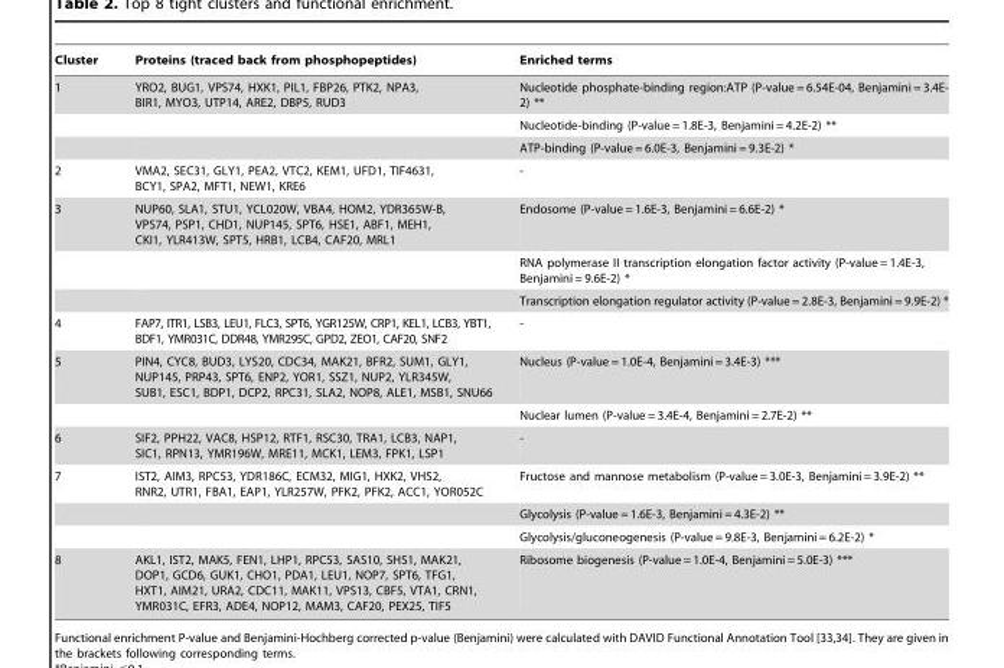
<table><thead><tr><td>Cluster</td><td>Proteins (traced back from phosphopeptides)</td><td>Enriched terms</td></tr></thead><tbody><tr><td rowspan="3">1</td><td>YRO2, BUG1, VPS74, HXK1, PIL1, FBP26, PTK2, NPA3, BIR1, MYO3, UTP14, ARE2, DBP5, RUD3</td><td>Nucleotide phosphate-binding region:ATP (P-value = 6.54E-04, Benjamini = 3.4E- 2) **</td></tr><tr><td></td><td>Nucleotide-binding (P-value = 1.8E-3, Benjamini = 4.2E-2) **</td></tr><tr><td></td><td>ATP-binding (P-value = 6.0E-3, Benjamini = 9.3E-2) *</td></tr><tr><td>2</td><td>VMA2, SEC31, GLY1, PEA2, VTC2, KEM1, UFD1, TIF4631, BCY1, SPA2, MFT1, NEW1, KRE6</td><td>-</td></tr><tr><td rowspan="3">3</td><td>NUP60, SLA1, STU1, YCL020W, VBA4, HOM2, YDR365W-B, VPS74, PSP1, CHD1, NUP145, SPT6, HSE1, ABF1, MEH1, CKI1, YLR413W, SPT5, HRB1, LCB4, CAF20, MRL1</td><td>Endosome (P-value = 1.6E-3, Benjamini = 6.6E-2) *</td></tr><tr><td></td><td>RNA polymerase II transcription elongation factor activity (P-value = 1.4E-3, Benjamini = 9.6E-2) *</td></tr><tr><td></td><td>Transcription elongation regulator activity (P-value = 2.8E-3, Benjamini = 9.9E-2) *</td></tr><tr><td>4</td><td>FAP7, ITR1, LSB3, LEU1, FLC3, SPT6, YGR125W, CRP1, KEL1, LCB3, YBT1, BDF1, YMR031C, DDR48, YMR295C, GPD2, ZEO1, CAF20, SNF2</td><td>-</td></tr><tr><td rowspan="2">5</td><td>PIN4, CYC8, BUD3, LYS20, CDC34, MAK21, BFR2, SUM1, GLY1, NUP145, PRP43, SPT6, ENP2, YOR1, SSZ1, NUP2, YLR345W, SUB1, ESC1, BDP1, DCP2, RPC31, SLA2, NOP8, ALE1, MSB1, SNU66</td><td>Nucleus (P-value = 1.0E-4, Benjamini = 3.4E-3) ***</td></tr><tr><td></td><td>Nuclear lumen (P-value = 3.4E-4, Benjamini = 2.7E-2) **</td></tr><tr><td>6</td><td>SIF2, PPH22, VAC8, HSP12, RTF1, RSC30, TRA1, LCB3, NAP1, SIC1, RPN13, YMR196W, MRE11, MCK1, LEM3, FPK1, LSP1</td><td>-</td></tr><tr><td rowspan="3">7</td><td>IST2, AIM3, RPC53, YDR186C, ECM32, MIG1, HXK2, VHS2, RNR2, UTR1, FBA1, EAP1, YLR257W, PFK2, PFK2, ACC1, YOR052C</td><td>Fructose and mannose metabolism (P-value = 3.0E-3, Benjamini = 3.9E-2) **</td></tr><tr><td></td><td>Glycolysis (P-value = 1.6E-3, Benjamini = 4.3E-2) **</td></tr><tr><td></td><td>Glycolysis/gluconeogenesis (P-value = 9.8E-3, Benjamini = 6.2E-2) *</td></tr><tr><td>8</td><td>AKL1, IST2, MAK5, FEN1, LHP1, RPC53, SAS10, SHS1, MAK21, DOP1, GCD6, GUK1, CHO1, PDA1, LEU1, NOP7, SPT6, TFG1, HXT1, AIM21, URA2, CDC11, MAK11, VPS13, CBF5, VTA1, CRN1, YMR031C, EFR3, ADE4, NOP12, MAM3, CAF20, PEX25, TIF5</td><td>Ribosome biogenesis (P-value = 1.0E-4, Benjamini = 5.0E-3) ***</td></tr></tbody></table>